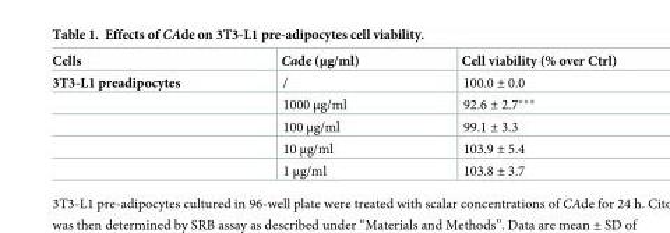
<table><thead><tr><td>Cells</td><td>Cade (μg/ml)</td><td>Cell viability (% over Ctrl)</td></tr></thead><tbody><tr><td rowspan="5">3T3-L1 preadipocytes</td><td>/</td><td>100.0 ± 0.0</td></tr><tr><td>1000 μg/ml</td><td>92.6 ± 2.7***</td></tr><tr><td>100 μg/ml</td><td>99.1 ± 3.3</td></tr><tr><td>10 μg/ml</td><td>103.9 ± 5.4</td></tr><tr><td>1 μg/ml</td><td>103.8 ± 3.7</td></tr></tbody></table>